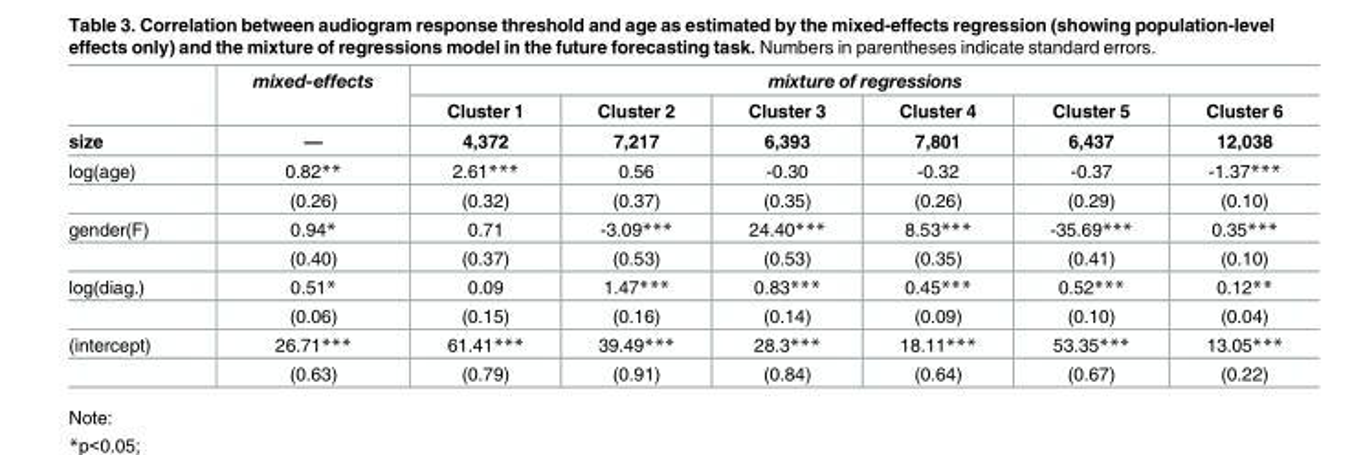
<table><thead><tr><td rowspan="3">size</td><td rowspan="3">mixed-effects —</td><td colspan="6">mixture of regressions</td></tr><tr><td rowspan="2">Cluster 1 4,372</td><td rowspan="2">Cluster 2 7,217</td><td rowspan="2">Cluster 3 6,393</td><td rowspan="2">Cluster 4 7,801</td><td rowspan="2">Cluster 5 6,437</td><td rowspan="2">Cluster 6 12,038</td></tr><tr></tr></thead><tbody><tr><td rowspan="2">log(age)</td><td>0.82**</td><td>2.61***</td><td>0.56</td><td>-0.30</td><td>-0.32</td><td>-0.37</td><td>-1.37***</td></tr><tr><td>(0.26)</td><td>(0.32)</td><td>(0.37)</td><td>(0.35)</td><td>(0.26)</td><td>(0.29)</td><td>(0.10)</td></tr><tr><td rowspan="2">gender(F)</td><td>0.94*</td><td>0.71</td><td>-3.09***</td><td>24.40***</td><td>8.53***</td><td>-35.69***</td><td>0.35***</td></tr><tr><td>(0.40)</td><td>(0.37)</td><td>(0.53)</td><td>(0.53)</td><td>(0.35)</td><td>(0.41)</td><td>(0.10)</td></tr><tr><td rowspan="2">log(diag.)</td><td>0.51*</td><td>0.09</td><td>1.47***</td><td>0.83***</td><td>0.45***</td><td>0.52***</td><td>0.12**</td></tr><tr><td>(0.06)</td><td>(0.15)</td><td>(0.16)</td><td>(0.14)</td><td>(0.09)</td><td>(0.10)</td><td>(0.04)</td></tr><tr><td rowspan="2">(intercept)</td><td>26.71***</td><td>61.41***</td><td>39.49***</td><td>28.3***</td><td>18.11***</td><td>53.35***</td><td>13.05***</td></tr><tr><td>(0.63)</td><td>(0.79)</td><td>(0.91)</td><td>(0.84)</td><td>(0.64)</td><td>(0.67)</td><td>(0.22)</td></tr></tbody></table>